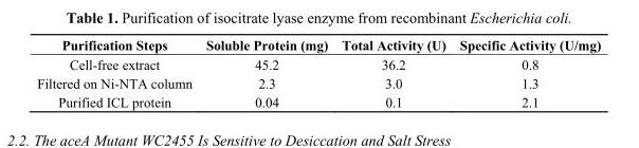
<table><thead><tr><td>Purification Steps</td><td>Soluble Protein (mg)</td><td>Total Activity (U)</td><td>Specific Activity (U/mg)</td></tr></thead><tbody><tr><td>Cell-free extract</td><td>45.2</td><td>36.2</td><td>0.8</td></tr><tr><td>Filtered on Ni-NTA column</td><td>2.3</td><td>3.0</td><td>1.3</td></tr><tr><td>Purified ICL protein</td><td>0.04</td><td>0.1</td><td>2.1</td></tr></tbody></table>